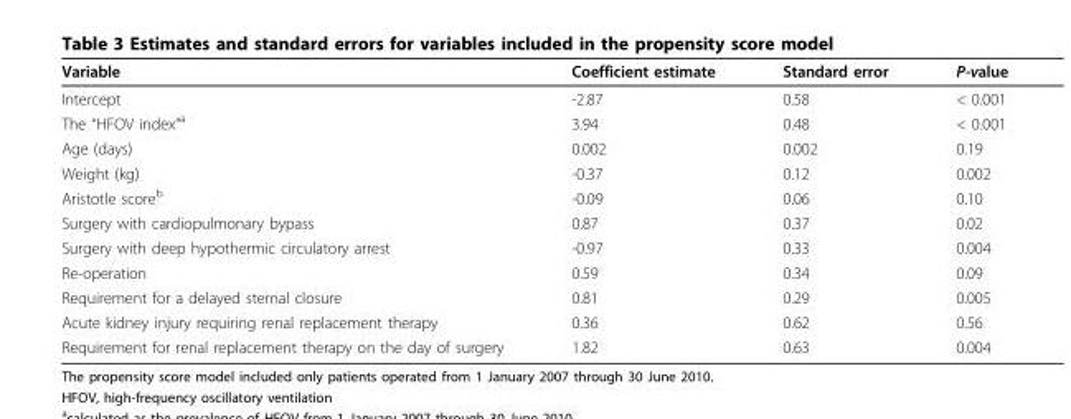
<table><thead><tr><td>Variable</td><td>Coefficient estimate</td><td>Standard error</td><td>P-value</td></tr></thead><tbody><tr><td>Intercept</td><td>-2.87</td><td>0.58</td><td>&lt; 0.001</td></tr><tr><td>The “HFOV index”a</td><td>3.94</td><td>0.48</td><td>&lt; 0.001</td></tr><tr><td>Age (days)</td><td>0.002</td><td>0.002</td><td>0.19</td></tr><tr><td>Weight (kg)</td><td>-0.37</td><td>0.12</td><td>0.002</td></tr><tr><td>Aristotle score<sup>b</sup></td><td>-0.09</td><td>0.06</td><td>0.10</td></tr><tr><td>Surgery with cardiopulmonary bypass</td><td>0.87</td><td>0.37</td><td>0.02</td></tr><tr><td>Surgery with deep hypothermic circulatory arrest</td><td>-0.97</td><td>0.33</td><td>0.004</td></tr><tr><td>Re-operation</td><td>0.59</td><td>0.34</td><td>0.09</td></tr><tr><td>Requirement for a delayed sternal closure</td><td>0.81</td><td>0.29</td><td>0.005</td></tr><tr><td>Acute kidney injury requiring renal replacement therapy</td><td>0.36</td><td>0.62</td><td>0.56</td></tr><tr><td>Requirement for renal replacement therapy on the day of surgery</td><td>1.82</td><td>0.63</td><td>0.004</td></tr></tbody></table>